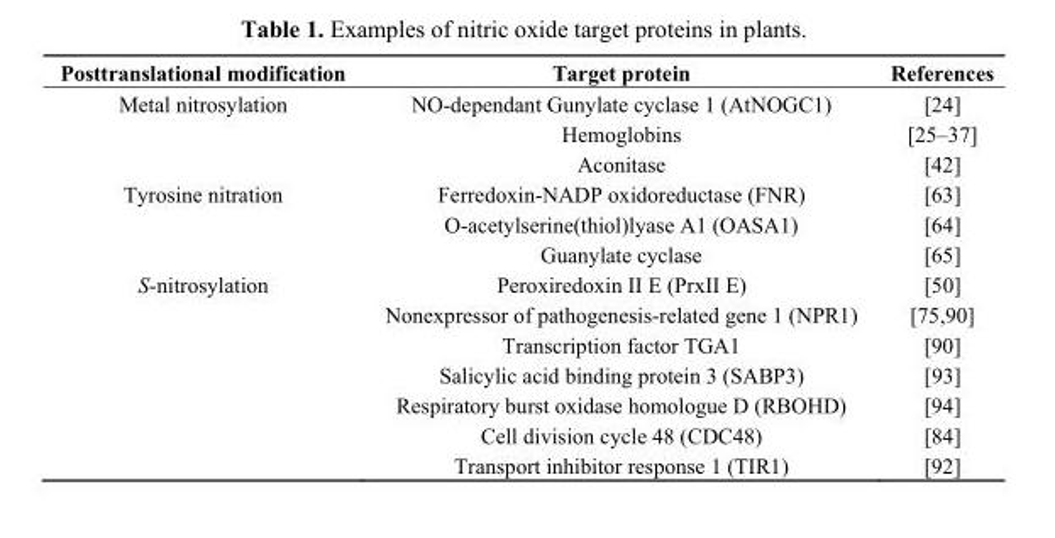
<table><thead><tr><td>Posttranslational modification</td><td>Target protein</td><td>References</td></tr></thead><tbody><tr><td rowspan="3">Metal nitrosylation</td><td>NO-dependant Gunylate cyclase 1 (AtNOGC1)</td><td>[24]</td></tr><tr><td>Hemoglobins</td><td>[25–37]</td></tr><tr><td>Aconitase</td><td>[42]</td></tr><tr><td rowspan="3">Tyrosine nitration</td><td>Ferredoxin-NADP oxidoreductase (FNR)</td><td>[63]</td></tr><tr><td>O-acetylserine(thiol)lyase A1 (OASA1)</td><td>[64]</td></tr><tr><td>Guanylate cyclase</td><td>[65]</td></tr><tr><td rowspan="7">S-nitrosylation</td><td>Peroxiredoxin II E (PrxII E)</td><td>[50]</td></tr><tr><td>Nonexpressor of pathogenesis-related gene 1 (NPR1)</td><td>[75,90]</td></tr><tr><td>Transcription factor TGA1</td><td>[90]</td></tr><tr><td>Salicylic acid binding protein 3 (SABP3)</td><td>[93]</td></tr><tr><td>Respiratory burst oxidase homologue D (RBOHD)</td><td>[94]</td></tr><tr><td>Cell division cycle 48 (CDC48)</td><td>[84]</td></tr><tr><td>Transport inhibitor response 1 (TIR1)</td><td>[92]</td></tr></tbody></table>